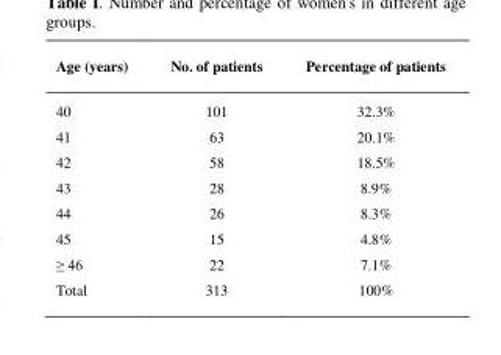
<table><thead><tr><td>Age (years)</td><td>No. of patients</td><td>Percentage of patients</td></tr></thead><tbody><tr><td>40</td><td>101</td><td>32.3%</td></tr><tr><td>41</td><td>63</td><td>20.1%</td></tr><tr><td>42</td><td>58</td><td>18.5%</td></tr><tr><td>43</td><td>28</td><td>8.9%</td></tr><tr><td>44</td><td>26</td><td>8.3%</td></tr><tr><td>45</td><td>15</td><td>4.8%</td></tr><tr><td>≥ 46</td><td>22</td><td>7.1%</td></tr><tr><td>Total</td><td>313</td><td>100%</td></tr></tbody></table>